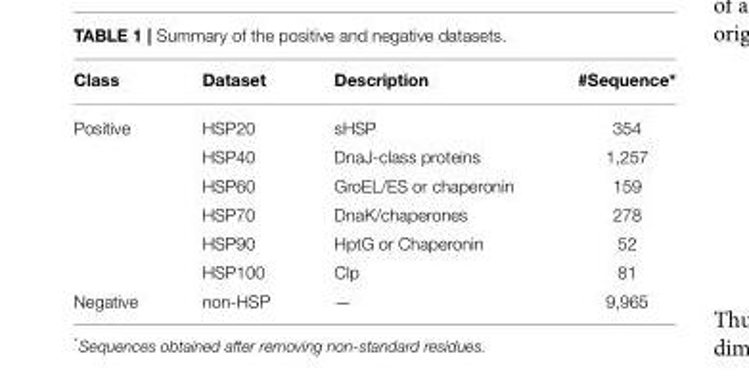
<table><thead><tr><td>Class</td><td>Dataset</td><td>Description</td><td>#Sequence*</td></tr></thead><tbody><tr><td rowspan="6">Positive</td><td>HSP20</td><td>sHSP</td><td>354</td></tr><tr><td>HSP40</td><td>DnaJ-class proteins</td><td>1,257</td></tr><tr><td>HSP60</td><td>GroEL/ES or chaperonin</td><td>159</td></tr><tr><td>HSP70</td><td>DnaK/chaperones</td><td>278</td></tr><tr><td>HSP90</td><td>HptG or Chaperonin</td><td>52</td></tr><tr><td>HSP100</td><td>Clp</td><td>81</td></tr><tr><td>Negative</td><td>non-HSP</td><td>—</td><td>9,965</td></tr></tbody></table>